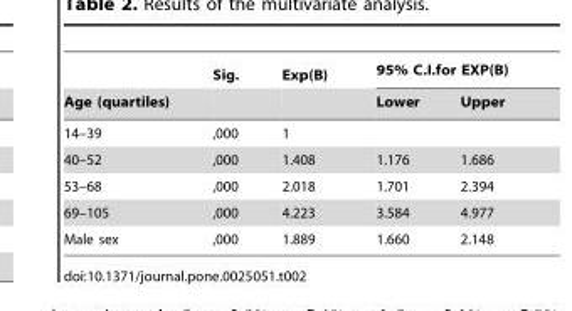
<table><thead><tr><td rowspan="2">Age (quartiles)</td><td rowspan="2">Sig.</td><td rowspan="2">Exp(B)</td><td colspan="2">95% C.I.for EXP(B)</td></tr><tr><td>Lower</td><td>Upper</td></tr></thead><tbody><tr><td>14–39</td><td>,000</td><td>1</td><td></td><td></td></tr><tr><td>40–52</td><td>,000</td><td>1.408</td><td>1.176</td><td>1.686</td></tr><tr><td>53–68</td><td>,000</td><td>2.018</td><td>1.701</td><td>2.394</td></tr><tr><td>69–105</td><td>,000</td><td>4.223</td><td>3.584</td><td>4.977</td></tr><tr><td>Male sex</td><td>,000</td><td>1.889</td><td>1.660</td><td>2.148</td></tr></tbody></table>